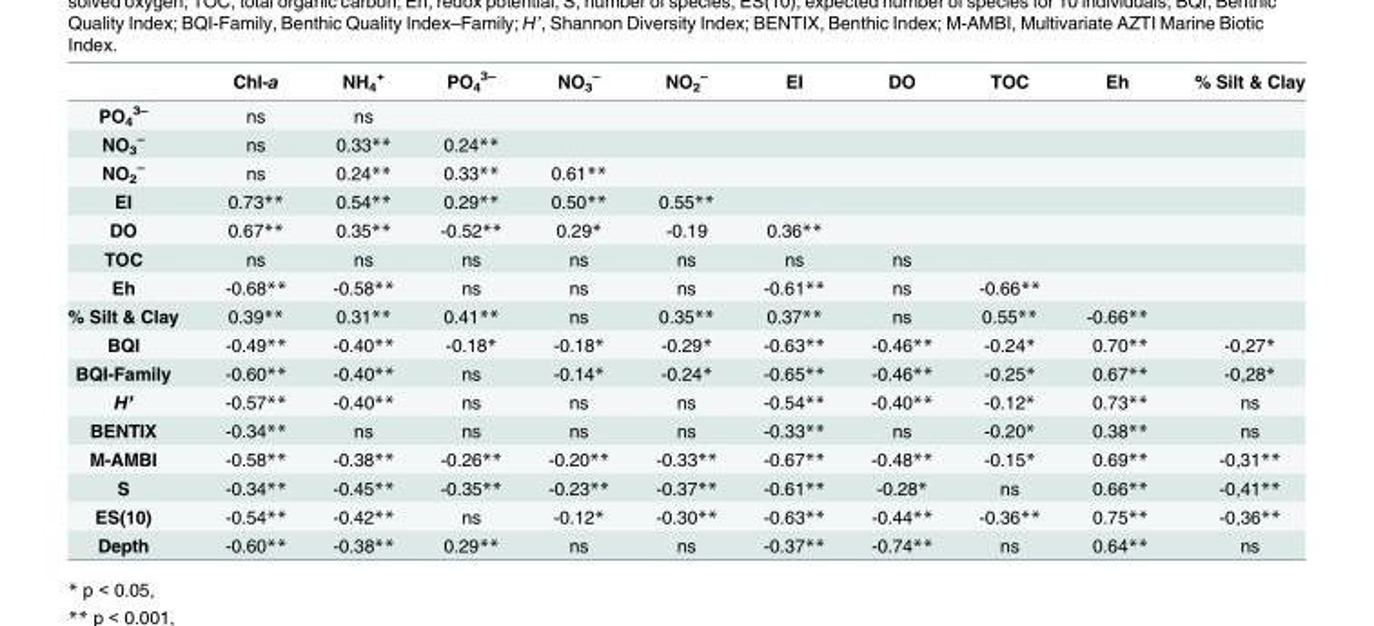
<table><thead><tr><td></td><td>Chl-a</td><td>NH<sub>4</sub> <sup>+</sup></td><td>PO<sub>4</sub> <sup>3–</sup></td><td>NO<sub>3</sub> <sup>–</sup></td><td>NO<sub>2</sub> <sup>–</sup></td><td>EI</td><td>DO</td><td>TOC</td><td>Eh</td><td>% Silt &amp; Clay</td></tr></thead><tbody><tr><td>PO<sub>4</sub> <sup>3–</sup></td><td>ns</td><td>ns</td><td></td><td></td><td></td><td></td><td></td><td></td><td></td><td></td></tr><tr><td>NO<sub>3</sub> <sup>–</sup></td><td>ns</td><td>0.33**</td><td>0.24**</td><td></td><td></td><td></td><td></td><td></td><td></td><td></td></tr><tr><td>NO<sub>2</sub> <sup>–</sup></td><td>ns</td><td>0.24**</td><td>0.33**</td><td>0.61**</td><td></td><td></td><td></td><td></td><td></td><td></td></tr><tr><td>EI</td><td>0.73**</td><td>0.54**</td><td>0.29**</td><td>0.50**</td><td>0.55**</td><td></td><td></td><td></td><td></td><td></td></tr><tr><td>DO</td><td>0.67**</td><td>0.35**</td><td>-0.52**</td><td>0.29*</td><td>-0.19</td><td>0.36**</td><td></td><td></td><td></td><td></td></tr><tr><td>TOC</td><td>ns</td><td>ns</td><td>ns</td><td>ns</td><td>ns</td><td>ns</td><td>ns</td><td></td><td></td><td></td></tr><tr><td>Eh</td><td>-0.68**</td><td>-0.58**</td><td>ns</td><td>ns</td><td>ns</td><td>-0.61**</td><td>ns</td><td>-0.66**</td><td></td><td></td></tr><tr><td>% Silt &amp; Clay</td><td>0.39**</td><td>0.31**</td><td>0.41**</td><td>ns</td><td>0.35**</td><td>0.37**</td><td>ns</td><td>0.55**</td><td>-0.66**</td><td></td></tr><tr><td>BQI</td><td>-0.49**</td><td>-0.40**</td><td>-0.18*</td><td>-0.18*</td><td>-0.29*</td><td>-0.63**</td><td>-0.46**</td><td>-0.24*</td><td>0.70**</td><td>-0,27*</td></tr><tr><td>BQI-Family</td><td>-0.60**</td><td>-0.40**</td><td>ns</td><td>-0.14*</td><td>-0.24*</td><td>-0.65**</td><td>-0.46**</td><td>-0.25*</td><td>0.67**</td><td>-0,28*</td></tr><tr><td>H’</td><td>-0.57**</td><td>-0.40**</td><td>ns</td><td>ns</td><td>ns</td><td>-0.54**</td><td>-0.40**</td><td>-0.12*</td><td>0.73**</td><td>ns</td></tr><tr><td>BENTIX</td><td>-0.34**</td><td>ns</td><td>ns</td><td>ns</td><td>ns</td><td>-0.33**</td><td>ns</td><td>-0.20*</td><td>0.38**</td><td>ns</td></tr><tr><td>M-AMBI</td><td>-0.58**</td><td>-0.38**</td><td>-0.26**</td><td>-0.20**</td><td>-0.33**</td><td>-0.67**</td><td>-0.48**</td><td>-0.15*</td><td>0.69**</td><td>-0,31**</td></tr><tr><td>S</td><td>-0.34**</td><td>-0.45**</td><td>-0.35**</td><td>-0.23**</td><td>-0.37**</td><td>-0.61**</td><td>-0.28*</td><td>ns</td><td>0.66**</td><td>-0,41**</td></tr><tr><td>ES(10)</td><td>-0.54**</td><td>-0.42**</td><td>ns</td><td>-0.12*</td><td>-0.30**</td><td>-0.63**</td><td>-0.44**</td><td>-0.36**</td><td>0.75**</td><td>-0,36**</td></tr><tr><td>Depth</td><td>-0.60**</td><td>-0.38**</td><td>0.29**</td><td>ns</td><td>ns</td><td>-0.37**</td><td>-0.74**</td><td>ns</td><td>0.64**</td><td>ns</td></tr></tbody></table>